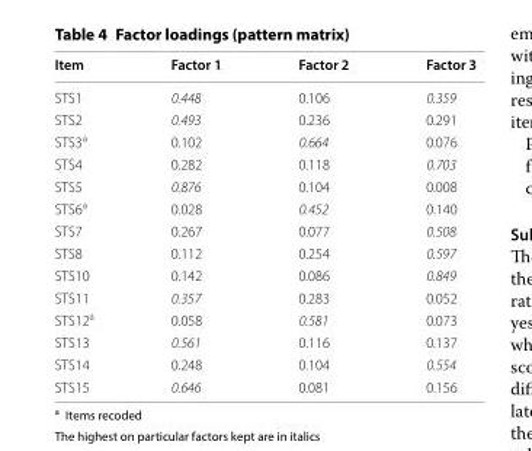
<table><thead><tr><td>Item</td><td>Factor 1</td><td>Factor 2</td><td>Factor 3</td></tr></thead><tbody><tr><td>STS1</td><td>0.448</td><td>0.106</td><td>0.359</td></tr><tr><td>STS2</td><td>0.493</td><td>0.236</td><td>0.291</td></tr><tr><td>STS3<sup>a</sup></td><td>0.102</td><td>0.664</td><td>0.076</td></tr><tr><td>STS4</td><td>0.282</td><td>0.118</td><td>0.703</td></tr><tr><td>STS5</td><td>0.876</td><td>0.104</td><td>0.008</td></tr><tr><td>STS6<sup>a</sup></td><td>0.028</td><td>0.452</td><td>0.140</td></tr><tr><td>STS7</td><td>0.267</td><td>0.077</td><td>0.508</td></tr><tr><td>STS8</td><td>0.112</td><td>0.254</td><td>0.597</td></tr><tr><td>STS10</td><td>0.142</td><td>0.086</td><td>0.849</td></tr><tr><td>STS11</td><td>0.357</td><td>0.283</td><td>0.052</td></tr><tr><td>STS12<sup>a</sup></td><td>0.058</td><td>0.581</td><td>0.073</td></tr><tr><td>STS13</td><td>0.561</td><td>0.116</td><td>0.137</td></tr><tr><td>STS14</td><td>0.248</td><td>0.104</td><td>0.554</td></tr><tr><td>STS15</td><td>0.646</td><td>0.081</td><td>0.156</td></tr></tbody></table>